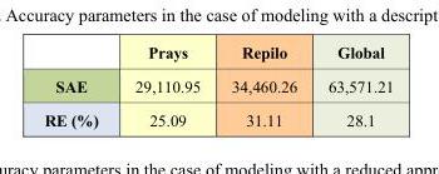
<table><thead><tr><td></td><td>Prays</td><td>Repilo</td><td>Global</td></tr></thead><tbody><tr><td>SAE</td><td>29,110.95</td><td>34,460.26</td><td>63,571.21</td></tr><tr><td>RE (%)</td><td>25.09</td><td>31.11</td><td>28.1</td></tr></tbody></table>